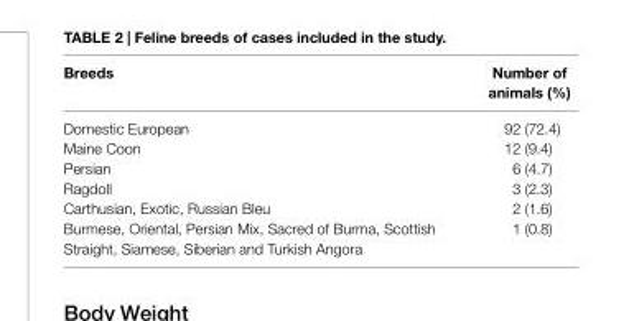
<table><thead><tr><td>Breeds</td><td>number of animals (%)</td></tr></thead><tbody><tr><td>Domestic European</td><td>92 (72.4)</td></tr><tr><td>Maine Coon</td><td>12 (9.4)</td></tr><tr><td>Persian</td><td>6 (4.7)</td></tr><tr><td>Ragdoll</td><td>3 (2.3)</td></tr><tr><td>Carthusian, Exotic, Russian Bleu</td><td>2 (1.6)</td></tr><tr><td>Burmese, Oriental, Persian Mix, Sacred of Burma, Scottish Straight, Siamese, Siberian and Turkish Angora</td><td>1 (0.8)</td></tr></tbody></table>